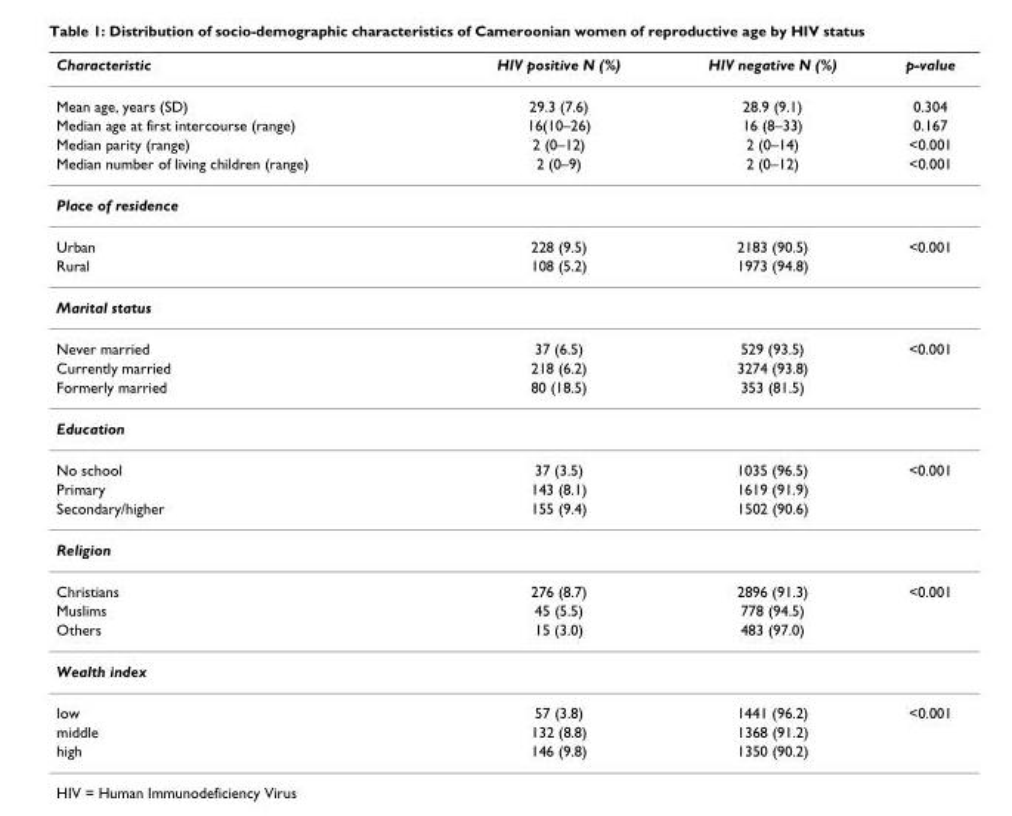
<table><thead><tr><td>Characteristic</td><td>HIV positive N (%)</td><td>HIV negative N (%)</td><td>p-value</td></tr></thead><tbody><tr><td>Mean age, years (SD)</td><td>29.3 (7.6)</td><td>28.9 (9.1)</td><td>0.304</td></tr><tr><td>Median age at first intercourse (range)</td><td>16(10–26)</td><td>16 (8–33)</td><td>0.167</td></tr><tr><td>Median parity (range)</td><td>2 (0–12)</td><td>2 (0–14)</td><td>&lt;0.001</td></tr><tr><td>Median number of living children (range)</td><td>2 (0–9)</td><td>2 (0–12)</td><td>&lt;0.001</td></tr><tr><td colspan="4">Place of residence</td></tr><tr><td>Urban</td><td>228 (9.5)</td><td>2183 (90.5)</td><td>&lt;0.001</td></tr><tr><td>Rural</td><td>108 (5.2)</td><td>1973 (94.8)</td><td></td></tr><tr><td colspan="4">Marital status</td></tr><tr><td>Never married</td><td>37 (6.5)</td><td>529 (93.5)</td><td>&lt;0.001</td></tr><tr><td>Currently married</td><td>218 (6.2)</td><td>3274 (93.8)</td><td></td></tr><tr><td>Formerly married</td><td>80 (18.5)</td><td>353 (81.5)</td><td></td></tr><tr><td colspan="4">Education</td></tr><tr><td>No school</td><td>37 (3.5)</td><td>1035 (96.5)</td><td>&lt;0.001</td></tr><tr><td>Primary</td><td>143 (8.1)</td><td>1619 (91.9)</td><td></td></tr><tr><td>Secondary/higher</td><td>155 (9.4)</td><td>1502 (90.6)</td><td></td></tr><tr><td colspan="4">Religion</td></tr><tr><td>Christians</td><td>276 (8.7)</td><td>2896 (91.3)</td><td>&lt;0.001</td></tr><tr><td>Muslims</td><td>45 (5.5)</td><td>778 (94.5)</td><td></td></tr><tr><td>Others</td><td>15 (3.0)</td><td>483 (97.0)</td><td></td></tr><tr><td colspan="4">Wealth index</td></tr><tr><td>low</td><td>57 (3.8)</td><td>1441 (96.2)</td><td>&lt;0.001</td></tr><tr><td>middle</td><td>132 (8.8)</td><td>1368 (91.2)</td><td></td></tr><tr><td>high</td><td>146 (9.8)</td><td>1350 (90.2)</td><td></td></tr></tbody></table>